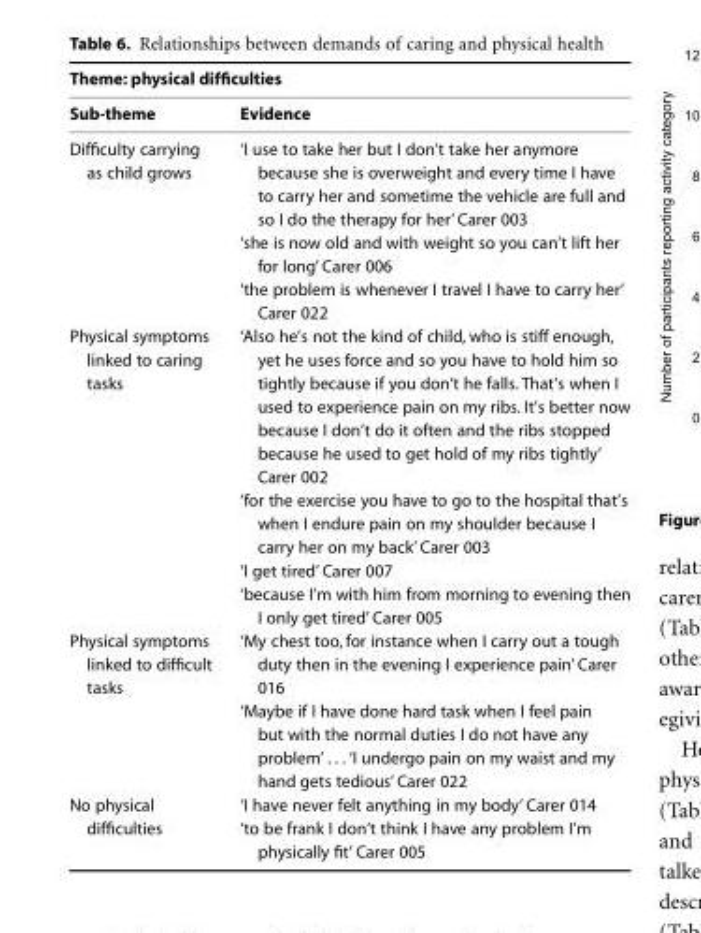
<table><thead><tr><td colspan="2">Theme: physical difficulties</td></tr><tr><td>Sub-theme</td><td>Evidence</td></tr></thead><tbody><tr><td rowspan="3">Difficulty carrying as child grows</td><td>‘I use to take her but I don’t take her anymore because she is overweight and every time I have to carry her and sometime the vehicle are full and so I do the therapy for her’ Carer 003</td></tr><tr><td>‘she is now old and with weight so you can’t lift her for long’ Carer 006</td></tr><tr><td>‘the problem is whenever I travel I have to carry her’ Carer 022</td></tr><tr><td rowspan="4">Physical symptoms linked to caring tasks</td><td>‘Also he’s not the kind of child, who is stiff enough, yet he uses force and so you have to hold him so tightly because if you don’t he falls.That’s when I used to experience pain on my ribs. It’s better now because I don’t do it often and the ribs stopped because he used to get hold of my ribs tightly’ Carer 002</td></tr><tr><td>‘for the exercise you have to go to the hospital that’s when I endure pain on my shoulder because I carry her on my back’ Carer 003</td></tr><tr><td>‘I get tired’ Carer 007</td></tr><tr><td>‘because I’m with him from morning to evening then I only get tired’ Carer 005</td></tr><tr><td rowspan="2">Physical symptoms linked to difficult tasks</td><td>‘My chest too, for instance when I carry out a tough duty then in the evening I experience pain’ Carer 016</td></tr><tr><td>‘Maybe if I have done hard task when I feel pain but with the normal duties I do not have any problem’ . . . ‘I undergo pain on my waist and my hand gets tedious’ Carer 022</td></tr><tr><td rowspan="2">No physical difficulties</td><td>‘I have never felt anything in my body’ Carer 014</td></tr><tr><td>‘to be frank I don’t think I have any problem I’m physically fit’ Carer 005</td></tr></tbody></table>